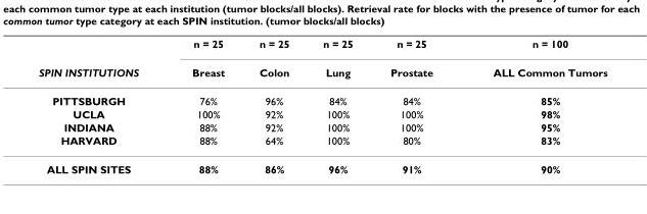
<table><thead><tr><td rowspan="2">SPIN INSTITUTIONS</td><td rowspan="2">n = 25 Breast</td><td rowspan="2">n = 25 Colon</td><td rowspan="2">n = 25 Lung</td><td rowspan="2">n = 25 Prostate</td><td rowspan="2">n = 100 ALL Common Tumors</td></tr><tr></tr></thead><tbody><tr><td>PITTSBURGH</td><td>76%</td><td>96%</td><td>84%</td><td>84%</td><td>85%</td></tr><tr><td>UCLA</td><td>100%</td><td>92%</td><td>100%</td><td>100%</td><td>98%</td></tr><tr><td>INDIANA</td><td>88%</td><td>92%</td><td>100%</td><td>100%</td><td>95%</td></tr><tr><td>HARVARD</td><td>88%</td><td>64%</td><td>100%</td><td>80%</td><td>83%</td></tr><tr><td>ALL SPIN SITES</td><td>88%</td><td>86%</td><td>96%</td><td>91%</td><td>90%</td></tr></tbody></table>